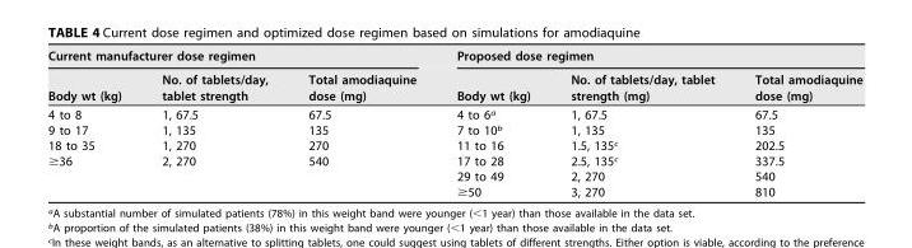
<table><thead><tr><td colspan="3">Current manufacturer dose regimen</td><td colspan="3">Proposed dose regimen</td></tr><tr><td>Body wt (kg)</td><td>No. of tablets/day, tablet strength</td><td>Total amodiaquine dose (mg)</td><td>Body wt (kg)</td><td>No. of tablets/day, tablet strength (mg)</td><td>Total amodiaquine dose (mg)</td></tr></thead><tbody><tr><td>4 to 8</td><td>1, 67.5</td><td>67.5</td><td>4 to 6<sup>a</sup></td><td>1, 67.5</td><td>67.5</td></tr><tr><td>9 to 17</td><td>1, 135</td><td>135</td><td>7 to 10<sup>b</sup></td><td>1, 135</td><td>135</td></tr><tr><td>18 to 35</td><td>1, 270</td><td>270</td><td>11 to 16</td><td>1.5, 135<sup>c</sup></td><td>202.5</td></tr><tr><td rowspan="3">≥36</td><td>2, 270</td><td>540</td><td>17 to 28</td><td>2.5, 135<sup>c</sup></td><td>337.5</td></tr><tr><td></td><td></td><td>29 to 49</td><td>2, 270</td><td>540</td></tr><tr><td></td><td></td><td>≥50</td><td>3, 270</td><td>810</td></tr></tbody></table>